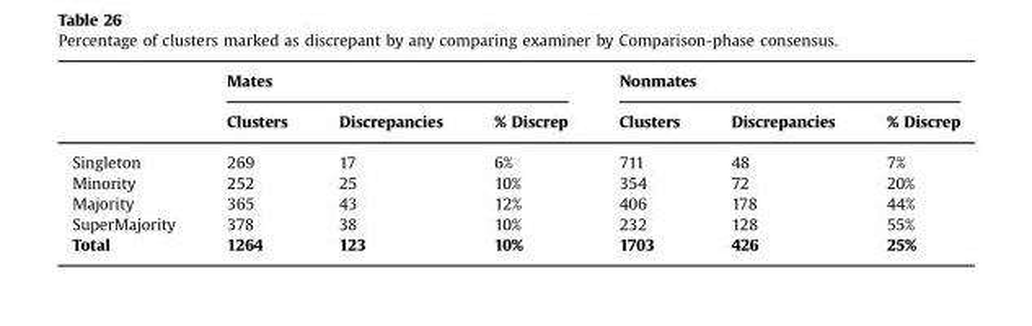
<table><thead><tr><td rowspan="2"></td><td colspan="3">Mates</td><td colspan="3">Nonmates</td></tr><tr><td>Clusters</td><td>Discrepancies</td><td>% Discrep</td><td>Clusters</td><td>Discrepancies</td><td>% Discrep</td></tr></thead><tbody><tr><td>Singleton</td><td>269</td><td>17</td><td>6%</td><td>711</td><td>48</td><td>7%</td></tr><tr><td>Minority</td><td>252</td><td>25</td><td>10%</td><td>354</td><td>72</td><td>20%</td></tr><tr><td>Majority</td><td>365</td><td>43</td><td>12%</td><td>406</td><td>178</td><td>44%</td></tr><tr><td>SuperMajority</td><td>378</td><td>38</td><td>10%</td><td>232</td><td>128</td><td>55%</td></tr><tr><td>Total</td><td>1264</td><td>123</td><td>10%</td><td>1703</td><td>426</td><td>25%</td></tr></tbody></table>